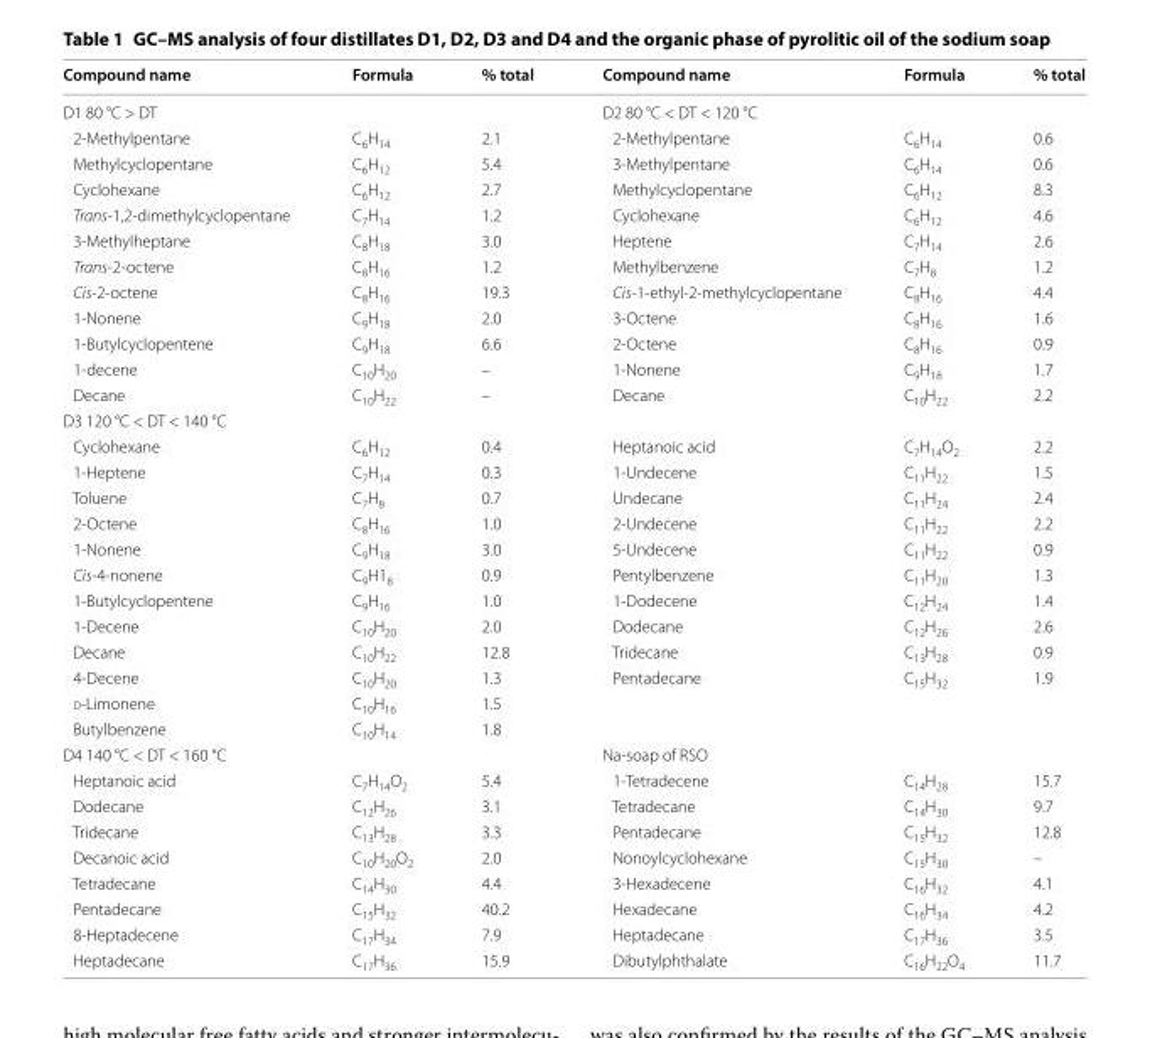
<table><thead><tr><td>Compound name</td><td>Formula</td><td>% total</td><td>Compound name</td><td>Formula</td><td>% total</td></tr></thead><tbody><tr><td colspan="3">D1 80 °C &gt; DT</td><td colspan="3">D2 80 °C &lt; DT &lt; 120 °C</td></tr><tr><td>2-Methylpentane</td><td>C<sub>6</sub>H<sub>14</sub></td><td>2.1</td><td>2-Methylpentane</td><td>C<sub>6</sub>H<sub>14</sub></td><td>0.6</td></tr><tr><td>Methylcyclopentane</td><td>C<sub>6</sub>H<sub>12</sub></td><td>5.4</td><td>3-Methylpentane</td><td>C<sub>6</sub>H<sub>14</sub></td><td>0.6</td></tr><tr><td>Cyclohexane</td><td>C<sub>6</sub>H<sub>12</sub></td><td>2.7</td><td>Methylcyclopentane</td><td>C<sub>6</sub>H<sub>12</sub></td><td>8.3</td></tr><tr><td>Trans-1,2-dimethylcyclopentane</td><td>C<sub>7</sub>H<sub>14</sub></td><td>1.2</td><td>Cyclohexane</td><td>C<sub>6</sub>H<sub>12</sub></td><td>4.6</td></tr><tr><td>3-Methylheptane</td><td>C<sub>8</sub>H<sub>18</sub></td><td>3.0</td><td>Heptene</td><td>C<sub>7</sub>H<sub>14</sub></td><td>2.6</td></tr><tr><td>Trans-2-octene</td><td>C<sub>8</sub>H<sub>16</sub></td><td>1.2</td><td>Methylbenzene</td><td>C<sub>7</sub>H<sub>8</sub></td><td>1.2</td></tr><tr><td>Cis-2-octene</td><td>C<sub>8</sub>H<sub>16</sub></td><td>19.3</td><td>Cis-1-ethyl-2-methylcyclopentane</td><td>C<sub>8</sub>H<sub>16</sub></td><td>4.4</td></tr><tr><td>1-Nonene</td><td>C<sub>9</sub>H<sub>18</sub></td><td>2.0</td><td>3-Octene</td><td>C<sub>8</sub>H<sub>16</sub></td><td>1.6</td></tr><tr><td>1-Butylcyclopentene</td><td>C<sub>9</sub>H<sub>18</sub></td><td>6.6</td><td>2-Octene</td><td>C<sub>8</sub>H<sub>16</sub></td><td>0.9</td></tr><tr><td>1-decene</td><td>C<sub>10</sub>H<sub>20</sub></td><td>–</td><td>1-Nonene</td><td>C<sub>9</sub>H<sub>18</sub></td><td>1.7</td></tr><tr><td>Decane</td><td>C<sub>10</sub>H<sub>22</sub></td><td>–</td><td>Decane</td><td>C<sub>10</sub>H<sub>22</sub></td><td>2.2</td></tr><tr><td colspan="6">D3 120 °C &lt; DT &lt; 140 °C</td></tr><tr><td>Cyclohexane</td><td>C<sub>6</sub>H<sub>12</sub></td><td>0.4</td><td>Heptanoic acid</td><td>C<sub>7</sub>H<sub>14</sub>O<sub>2</sub></td><td>2.2</td></tr><tr><td>1-Heptene</td><td>C<sub>7</sub>H<sub>14</sub></td><td>0.3</td><td>1-Undecene</td><td>C<sub>11</sub>H<sub>22</sub></td><td>1.5</td></tr><tr><td>Toluene</td><td>C<sub>7</sub>H<sub>8</sub></td><td>0.7</td><td>Undecane</td><td>C<sub>11</sub>H<sub>24</sub></td><td>2.4</td></tr><tr><td>2-Octene</td><td>C<sub>8</sub>H<sub>16</sub></td><td>1.0</td><td>2-Undecene</td><td>C<sub>11</sub>H<sub>22</sub></td><td>2.2</td></tr><tr><td>1-Nonene</td><td>C<sub>9</sub>H<sub>18</sub></td><td>3.0</td><td>5-Undecene</td><td>C<sub>11</sub>H<sub>22</sub></td><td>0.9</td></tr><tr><td>Cis-4-nonene</td><td>C<sub>9</sub>H1<sub>8</sub></td><td>0.9</td><td>Pentylbenzene</td><td>C<sub>11</sub>H<sub>20</sub></td><td>1.3</td></tr><tr><td>1-Butylcyclopentene</td><td>C<sub>9</sub>H<sub>16</sub></td><td>1.0</td><td>1-Dodecene</td><td>C<sub>12</sub>H<sub>24</sub></td><td>1.4</td></tr><tr><td>1-Decene</td><td>C<sub>10</sub>H<sub>20</sub></td><td>2.0</td><td>Dodecane</td><td>C<sub>12</sub>H<sub>26</sub></td><td>2.6</td></tr><tr><td>Decane</td><td>C<sub>10</sub>H<sub>22</sub></td><td>12.8</td><td>Tridecane</td><td>C<sub>13</sub>H<sub>28</sub></td><td>0.9</td></tr><tr><td>4-Decene</td><td>C<sub>10</sub>H<sub>20</sub></td><td>1.3</td><td>Pentadecane</td><td>C<sub>15</sub>H<sub>32</sub></td><td>1.9</td></tr><tr><td>d-Limonene</td><td>C<sub>10</sub>H<sub>16</sub></td><td>1.5</td><td></td><td></td><td></td></tr><tr><td>Butylbenzene</td><td>C<sub>10</sub>H<sub>14</sub></td><td>1.8</td><td></td><td></td><td></td></tr><tr><td colspan="3">D4 140 °C &lt; DT &lt; 160 °C</td><td colspan="3">Na-soap of RSO</td></tr><tr><td>Heptanoic acid</td><td>C<sub>7</sub>H<sub>14</sub>O<sub>2</sub></td><td>5.4</td><td>1-Tetradecene</td><td>C<sub>14</sub>H<sub>28</sub></td><td>15.7</td></tr><tr><td>Dodecane</td><td>C<sub>12</sub>H<sub>26</sub></td><td>3.1</td><td>Tetradecane</td><td>C<sub>14</sub>H<sub>30</sub></td><td>9.7</td></tr><tr><td>Tridecane</td><td>C<sub>13</sub>H<sub>28</sub></td><td>3.3</td><td>Pentadecane</td><td>C<sub>15</sub>H<sub>32</sub></td><td>12.8</td></tr><tr><td>Decanoic acid</td><td>C<sub>10</sub>H<sub>20</sub>O<sub>2</sub></td><td>2.0</td><td>Nonoylcyclohexane</td><td>C<sub>15</sub>H<sub>30</sub></td><td>–</td></tr><tr><td>Tetradecane</td><td>C<sub>14</sub>H<sub>30</sub></td><td>4.4</td><td>3-Hexadecene</td><td>C<sub>16</sub>H<sub>32</sub></td><td>4.1</td></tr><tr><td>Pentadecane</td><td>C<sub>15</sub>H<sub>32</sub></td><td>40.2</td><td>Hexadecane</td><td>C<sub>16</sub>H<sub>34</sub></td><td>4.2</td></tr><tr><td>8-Heptadecene</td><td>C<sub>17</sub>H<sub>34</sub></td><td>7.9</td><td>Heptadecane</td><td>C<sub>17</sub>H<sub>36</sub></td><td>3.5</td></tr><tr><td>Heptadecane</td><td>C<sub>17</sub>H<sub>36</sub></td><td>15.9</td><td>Dibutylphthalate</td><td>C<sub>16</sub>H<sub>22</sub>O<sub>4</sub></td><td>11.7</td></tr></tbody></table>